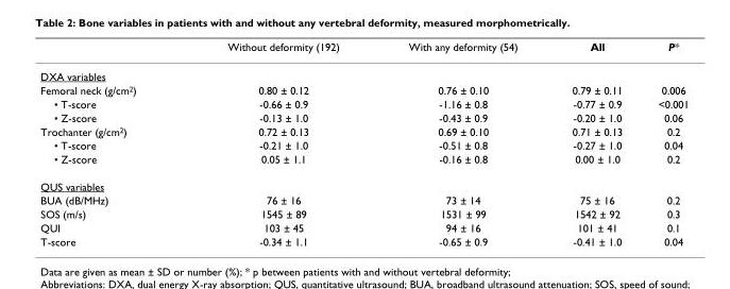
<table><thead><tr><td></td><td>Without deformity (192)</td><td>With any deformity (54)</td><td>All</td><td>P*</td></tr></thead><tbody><tr><td colspan="5">DXA variables</td></tr><tr><td>Femoral neck (g/cm<sup>2</sup>)</td><td>0.80 ± 0.12</td><td>0.76 ± 0.10</td><td>0.79 ± 0.11</td><td>0.006</td></tr><tr><td>• T-score</td><td>-0.66 ± 0.9</td><td>-1.16 ± 0.8</td><td>-0.77 ± 0.9</td><td>&lt;0.001</td></tr><tr><td>• Z-score</td><td>-0.13 ± 1.0</td><td>-0.43 ± 0.9</td><td>-0.20 ± 1.0</td><td>0.06</td></tr><tr><td>Trochanter (g/cm<sup>2</sup>)</td><td>0.72 ± 0.13</td><td>0.69 ± 0.10</td><td>0.71 ± 0.13</td><td>0.2</td></tr><tr><td>• T-score</td><td>-0.21 ± 1.0</td><td>-0.51 ± 0.8</td><td>-0.27 ± 1.0</td><td>0.04</td></tr><tr><td>• Z-score</td><td>0.05 ± 1.1</td><td>-0.16 ± 0.8</td><td>0.00 ± 1.0</td><td>0.2</td></tr><tr><td colspan="5">QUS variables</td></tr><tr><td>BUA (dB/MHz)</td><td>76 ± 16</td><td>73 ± 14</td><td>75 ± 16</td><td>0.2</td></tr><tr><td>SOS (m/s)</td><td>1545 ± 89</td><td>1531 ± 99</td><td>1542 ± 92</td><td>0.3</td></tr><tr><td>QUI</td><td>103 ± 45</td><td>94 ± 16</td><td>101 ± 41</td><td>0.1</td></tr><tr><td>T-score</td><td>-0.34 ± 1.1</td><td>-0.65 ± 0.9</td><td>-0.41 ± 1.0</td><td>0.04</td></tr></tbody></table>